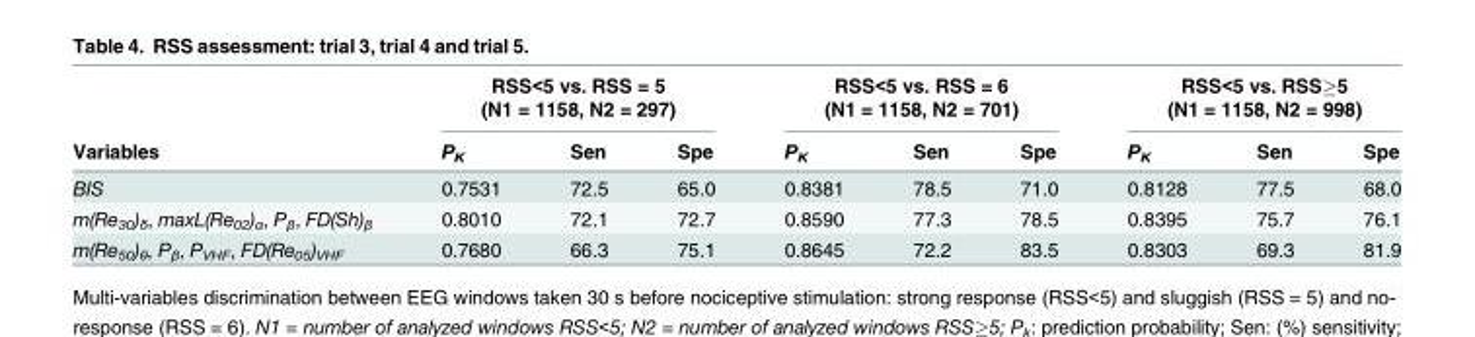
<table><thead><tr><td rowspan="2">Variables</td><td colspan="3">RSS&lt;5 vs. RSS = 5 (N1 = 1158, N2 = 297)</td><td colspan="3">RSS&lt;5 vs. RSS = 6 (N1 = 1158, N2 = 701)</td><td colspan="3">RSS&lt;5 vs. RSS≥5 (N1 = 1158, N2 = 998)</td></tr><tr><td>P<sub>K</sub></td><td>Sen</td><td>Spe</td><td>P<sub>K</sub></td><td>Sen</td><td>Spe</td><td>P<sub>K</sub></td><td>Sen</td><td>Spe</td></tr></thead><tbody><tr><td>BIS</td><td>0.7531</td><td>72.5</td><td>65.0</td><td>0.8381</td><td>78.5</td><td>71.0</td><td>0.8128</td><td>77.5</td><td>68.0</td></tr><tr><td>m(Re<sub>30</sub>)<sub>δ</sub>, maxL(Re<sub>02</sub>)<sub>α</sub>, P<sub>β</sub>, FD(Sh)<sub>β</sub></td><td>0.8010</td><td>72.1</td><td>72.7</td><td>0.8590</td><td>77.3</td><td>78.5</td><td>0.8395</td><td>75.7</td><td>76.1</td></tr><tr><td>m(Re<sub>50</sub>)<sub>θ</sub>, P<sub>β</sub>, P<sub>VHF</sub>, FD(Re<sub>05</sub>)<sub>VHF</sub></td><td>0.7680</td><td>66.3</td><td>75.1</td><td>0.8645</td><td>72.2</td><td>83.5</td><td>0.8303</td><td>69.3</td><td>81.9</td></tr></tbody></table>